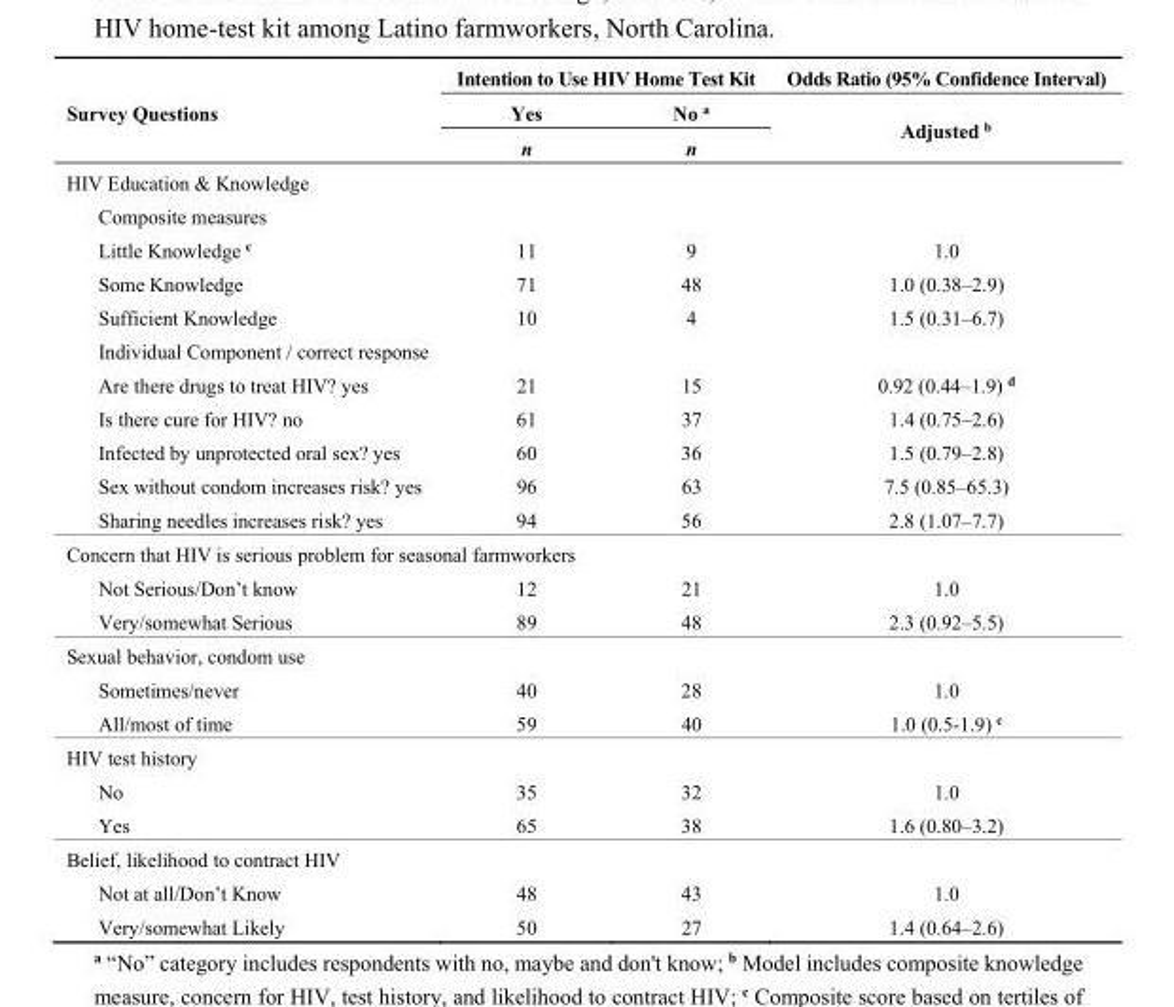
<table><thead><tr><td rowspan="3">Survey Questions</td><td colspan="2">Intention to Use HIV Home Test Kit</td><td rowspan="3">Odds Ratio (95% Confidence Interval) Adjusted <sup>b</sup></td></tr><tr><td rowspan="2">Yes n</td><td rowspan="2">No <sup>a</sup> n</td></tr><tr></tr></thead><tbody><tr><td colspan="4">HIV Education &amp; Knowledge</td></tr><tr><td colspan="4">Composite measures</td></tr><tr><td>Little Knowledge <sup>c</sup></td><td>11</td><td>9</td><td>1.0</td></tr><tr><td>Some Knowledge</td><td>71</td><td>48</td><td>1.0 (0.38–2.9)</td></tr><tr><td>Sufficient Knowledge</td><td>10</td><td>4</td><td>1.5 (0.31–6.7)</td></tr><tr><td colspan="4">Individual Component / correct response</td></tr><tr><td>Are there drugs to treat HIV? yes</td><td>21</td><td>15</td><td>0.92 (0.44–1.9) <sup>d</sup></td></tr><tr><td>Is there cure for HIV? no</td><td>61</td><td>37</td><td>1.4 (0.75–2.6)</td></tr><tr><td>Infected by unprotected oral sex? yes</td><td>60</td><td>36</td><td>1.5 (0.79–2.8)</td></tr><tr><td>Sex without condom increases risk? yes</td><td>96</td><td>63</td><td>7.5 (0.85–65.3)</td></tr><tr><td>Sharing needles increases risk? yes</td><td>94</td><td>56</td><td>2.8 (1.07–7.7)</td></tr><tr><td colspan="4">Concern that HIV is serious problem for seasonal farmworkers</td></tr><tr><td>Not Serious/Don’t know</td><td>12</td><td>21</td><td>1.0</td></tr><tr><td>Very/somewhat Serious</td><td>89</td><td>48</td><td>2.3 (0.92–5.5)</td></tr><tr><td colspan="4">Sexual behavior, condom use</td></tr><tr><td>Sometimes/never</td><td>40</td><td>28</td><td>1.0</td></tr><tr><td>All/most of time</td><td>59</td><td>40</td><td>1.0 (0.5-1.9) <sup>c</sup></td></tr><tr><td colspan="4">HIV test history</td></tr><tr><td>No</td><td>35</td><td>32</td><td>1.0</td></tr><tr><td>Yes</td><td>65</td><td>38</td><td>1.6 (0.80–3.2)</td></tr><tr><td colspan="4">Belief, likelihood to contract HIV</td></tr><tr><td>Not at all/Don’t Know</td><td>48</td><td>43</td><td>1.0</td></tr><tr><td>Very/somewhat Likely</td><td>50</td><td>27</td><td>1.4 (0.64–2.6)</td></tr></tbody></table>